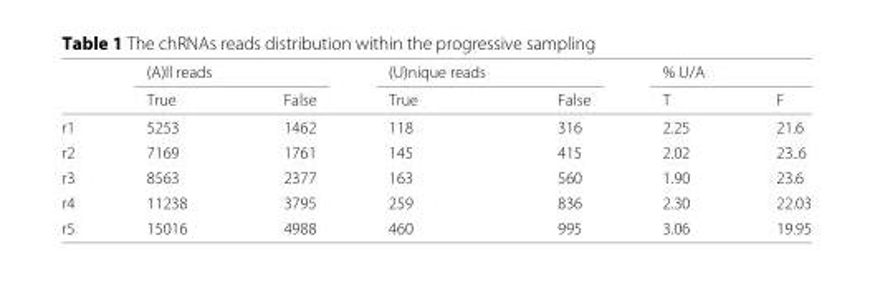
<table><thead><tr><td rowspan="2"></td><td rowspan="2">(A)ll reads True</td><td rowspan="2">False</td><td rowspan="2">(U)nique reads True</td><td rowspan="2">False</td><td rowspan="2">% U/A T</td><td rowspan="2">F</td></tr><tr></tr></thead><tbody><tr><td>r1</td><td>5253</td><td>1462</td><td>118</td><td>316</td><td>2.25</td><td>21.6</td></tr><tr><td>r2</td><td>7169</td><td>1761</td><td>145</td><td>415</td><td>2.02</td><td>23..6</td></tr><tr><td>r3</td><td>8563</td><td>2377</td><td>163</td><td>560</td><td>1.90</td><td>23.6</td></tr><tr><td>r4</td><td>11238</td><td>3795</td><td>259</td><td>836</td><td>2.30</td><td>22.03</td></tr><tr><td>r5</td><td>15016</td><td>4988</td><td>460</td><td>995</td><td>3.06</td><td>19.95</td></tr></tbody></table>